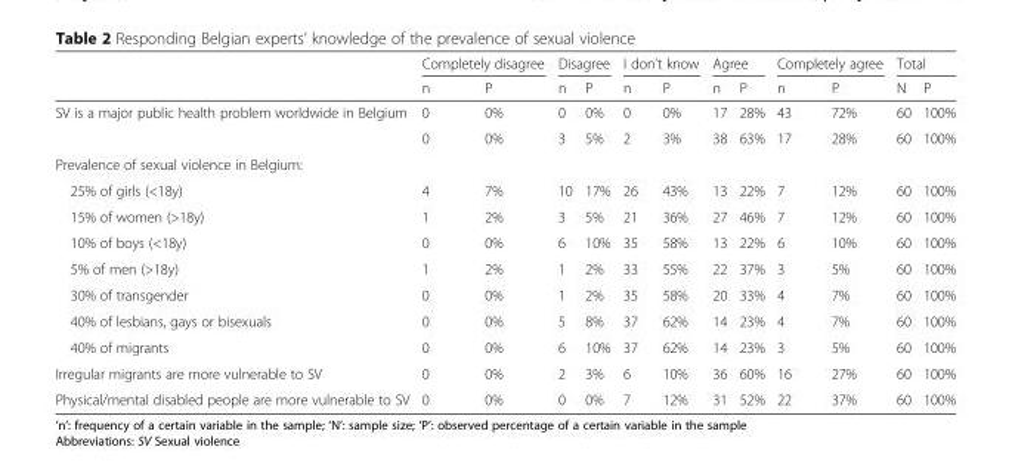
<table><thead><tr><td rowspan="2"></td><td colspan="2">Completely disagree</td><td colspan="2">Disagree</td><td colspan="2">I don’t know</td><td colspan="2">Agree</td><td colspan="2">Completely agree</td><td colspan="2">Total</td></tr><tr><td>n</td><td>P</td><td>n</td><td>P</td><td>n</td><td>P</td><td>n</td><td>P</td><td>n</td><td>P</td><td>N</td><td>P</td></tr></thead><tbody><tr><td rowspan="2">SV is a major public health problem worldwide in Belgium</td><td>0</td><td>0%</td><td>0</td><td>0%</td><td>0</td><td>0%</td><td>17</td><td>28%</td><td>43</td><td>72%</td><td>60</td><td>100%</td></tr><tr><td>0</td><td>0%</td><td>3</td><td>5%</td><td>2</td><td>3%</td><td>38</td><td>63%</td><td>17</td><td>28%</td><td>60</td><td>100%</td></tr><tr><td colspan="13">Prevalence of sexual violence in Belgium:</td></tr><tr><td>25% of girls (&lt;18y)</td><td>4</td><td>7%</td><td>10</td><td>17%</td><td>26</td><td>43%</td><td>13</td><td>22%</td><td>7</td><td>12%</td><td>60</td><td>100%</td></tr><tr><td>15% of women (&gt;18y)</td><td>1</td><td>2%</td><td>3</td><td>5%</td><td>21</td><td>36%</td><td>27</td><td>46%</td><td>7</td><td>12%</td><td>60</td><td>100%</td></tr><tr><td>10% of boys (&lt;18y)</td><td>0</td><td>0%</td><td>6</td><td>10%</td><td>35</td><td>58%</td><td>13</td><td>22%</td><td>6</td><td>10%</td><td>60</td><td>100%</td></tr><tr><td>5% of men (&gt;18y)</td><td>1</td><td>2%</td><td>1</td><td>2%</td><td>33</td><td>55%</td><td>22</td><td>37%</td><td>3</td><td>5%</td><td>60</td><td>100%</td></tr><tr><td>30% of transgender</td><td>0</td><td>0%</td><td>1</td><td>2%</td><td>35</td><td>58%</td><td>20</td><td>33%</td><td>4</td><td>7%</td><td>60</td><td>100%</td></tr><tr><td>40% of lesbians, gays or bisexuals</td><td>0</td><td>0%</td><td>5</td><td>8%</td><td>37</td><td>62%</td><td>14</td><td>23%</td><td>4</td><td>7%</td><td>60</td><td>100%</td></tr><tr><td>40% of migrants</td><td>0</td><td>0%</td><td>6</td><td>10%</td><td>37</td><td>62%</td><td>14</td><td>23%</td><td>3</td><td>5%</td><td>60</td><td>100%</td></tr><tr><td>Irregular migrants are more vulnerable to SV</td><td>0</td><td>0%</td><td>2</td><td>3%</td><td>6</td><td>10%</td><td>36</td><td>60%</td><td>16</td><td>27%</td><td>60</td><td>100%</td></tr><tr><td>Physical/mental disabled people are more vulnerable to SV</td><td>0</td><td>0%</td><td>0</td><td>0%</td><td>7</td><td>12%</td><td>31</td><td>52%</td><td>22</td><td>37%</td><td>60</td><td>100%</td></tr></tbody></table>